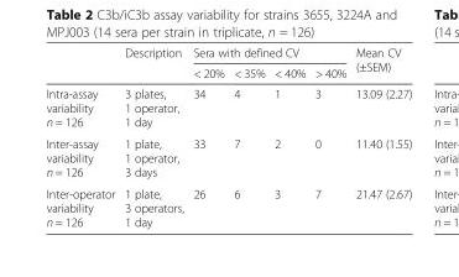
<table><thead><tr><td rowspan="2"></td><td rowspan="2">Description</td><td colspan="4">Sera with defined CV</td><td rowspan="2">Mean CV (±SEM)</td></tr><tr><td>&lt; 20%</td><td>&lt; 35%</td><td>&lt; 40%</td><td>&gt; 40%</td></tr></thead><tbody><tr><td>Intra-assay variability n = 126</td><td>3 plates, 1 operator, 1 day</td><td>34</td><td>4</td><td>1</td><td>3</td><td>13.09 (2.27)</td></tr><tr><td>Inter-assay variability n = 126</td><td>1 plate, 1 operator, 3 days</td><td>33</td><td>7</td><td>2</td><td>0</td><td>11.40 (1.55)</td></tr><tr><td>Inter-operator variability n = 126</td><td>1 plate, 3 operators, 1 day</td><td>26</td><td>6</td><td>3</td><td>7</td><td>21.47 (2.67)</td></tr></tbody></table>